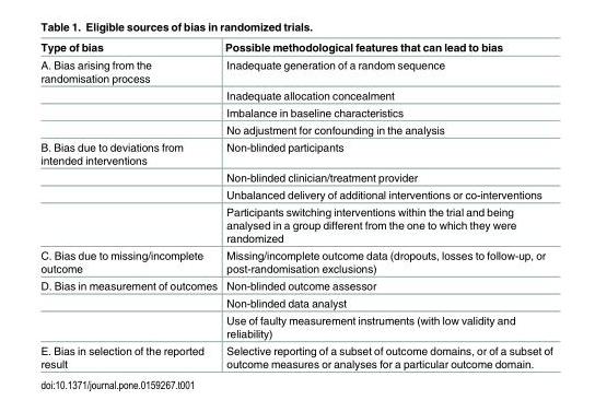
<table><thead><tr><td>Type of bias</td><td>Possible methodological features that can lead to bias</td></tr></thead><tbody><tr><td rowspan="4">A. Bias arising from the randomisation process</td><td>Inadequate generation of a random sequence</td></tr><tr><td>Inadequate allocation concealment</td></tr><tr><td>Imbalance in baseline characteristics</td></tr><tr><td>No adjustment for confounding in the analysis</td></tr><tr><td rowspan="4">B. Bias due to deviations from intended interventions</td><td>Non-blinded participants</td></tr><tr><td>Non-blinded clinician/treatment provider</td></tr><tr><td>Unbalanced delivery of additional interventions or co-interventions</td></tr><tr><td>Participants switching interventions within the trial and being analysed in a group different from the one to which they were randomized</td></tr><tr><td>C. Bias due to missing/incomplete outcome</td><td>Missing/incomplete outcome data (dropouts, losses to follow-up, or post-randomisation exclusions)</td></tr><tr><td rowspan="3">D. Bias in measurement of outcomes</td><td>Non-blinded outcome assessor</td></tr><tr><td>Non-blinded data analyst</td></tr><tr><td>Use of faulty measurement instruments (with low validity and reliability)</td></tr><tr><td>E. Bias in selection of the reported result</td><td>Selective reporting of a subset of outcome domains, or of a subset of outcome measures or analyses for a particular outcome domain.</td></tr></tbody></table>